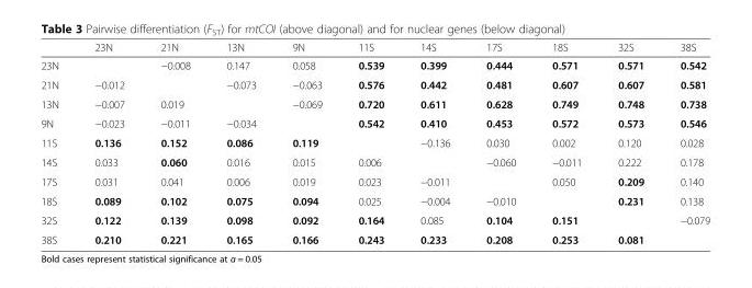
<table><thead><tr><td></td><td>23N</td><td>21N</td><td>13N</td><td>9N</td><td>11S</td><td>14S</td><td>17S</td><td>18S</td><td>32S</td><td>38S</td></tr></thead><tbody><tr><td>23N</td><td></td><td>−0.008</td><td>0.147</td><td>0.058</td><td>0.539</td><td>0.399</td><td>0.444</td><td>0.571</td><td>0.571</td><td>0.542</td></tr><tr><td>21N</td><td>−0.012</td><td></td><td>−0.073</td><td>−0.063</td><td>0.576</td><td>0.442</td><td>0.481</td><td>0.607</td><td>0.607</td><td>0.581</td></tr><tr><td>13N</td><td>−0.007</td><td>0.019</td><td></td><td>−0.069</td><td>0.720</td><td>0.611</td><td>0.628</td><td>0.749</td><td>0.748</td><td>0.738</td></tr><tr><td>9N</td><td>−0.023</td><td>−0.011</td><td>−0.034</td><td></td><td>0.542</td><td>0.410</td><td>0.453</td><td>0.572</td><td>0.573</td><td>0.546</td></tr><tr><td>11S</td><td>0.136</td><td>0.152</td><td>0.086</td><td>0.119</td><td></td><td>−0.136</td><td>0.030</td><td>0.002</td><td>0.120</td><td>0.028</td></tr><tr><td>14S</td><td>0.033</td><td>0.060</td><td>0.016</td><td>0.015</td><td>0.006</td><td></td><td>−0.060</td><td>−0.011</td><td>0.222</td><td>0.178</td></tr><tr><td>17S</td><td>0.031</td><td>0.041</td><td>0.006</td><td>0.019</td><td>0.023</td><td>−0.011</td><td></td><td>0.050</td><td>0.209</td><td>0.140</td></tr><tr><td>18S</td><td>0.089</td><td>0.102</td><td>0.075</td><td>0.094</td><td>0.025</td><td>−0.004</td><td>−0.010</td><td></td><td>0.231</td><td>0.138</td></tr><tr><td>32S</td><td>0.122</td><td>0.139</td><td>0.098</td><td>0.092</td><td>0.164</td><td>0.085</td><td>0.104</td><td>0.151</td><td></td><td>−0.079</td></tr><tr><td>38S</td><td>0.210</td><td>0.221</td><td>0.165</td><td>0.166</td><td>0.243</td><td>0.233</td><td>0.208</td><td>0.253</td><td>0.081</td><td></td></tr></tbody></table>